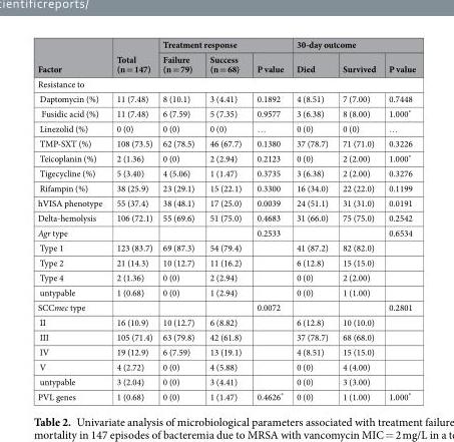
<table><thead><tr><td rowspan="2">Factor</td><td rowspan="2">Total (n = 147)</td><td colspan="3">Treatment response</td><td colspan="3">30-day outcome</td></tr><tr><td>Failure (n = 79)</td><td>Success (n = 68)</td><td>P value</td><td>Died</td><td>Survived</td><td>P value</td></tr></thead><tbody><tr><td colspan="8">Resistance to</td></tr><tr><td>Daptomycin (%)</td><td>11 (7.48)</td><td>8 (10.1)</td><td>3 (4.41)</td><td>0.1892</td><td>4 (8.51)</td><td>7 (7.00)</td><td>0.7448</td></tr><tr><td>Fusidic acid (%)</td><td>11 (7.48)</td><td>6 (7.59)</td><td>5 (7.35)</td><td>0.9577</td><td>3 (6.38)</td><td>8 (8.00)</td><td>1.000*</td></tr><tr><td>Linezolid (%)</td><td>0 (0)</td><td>0 (0)</td><td>0 (0)</td><td>…</td><td>0 (0)</td><td>0 (0)</td><td>…</td></tr><tr><td>TMP-SXT (%)</td><td>108 (73.5)</td><td>62 (78.5)</td><td>46 (67.7)</td><td>0.1380</td><td>37 (78.7)</td><td>71 (71.0)</td><td>0.3226</td></tr><tr><td>Teicoplanin (%)</td><td>2 (1.36)</td><td>0 (0)</td><td>2 (2.94)</td><td>0.2123</td><td>0 (0)</td><td>2 (2.00)</td><td>1.000*</td></tr><tr><td>Tigecycline (%)</td><td>5 (3.40)</td><td>4 (5.06)</td><td>1 (1.47)</td><td>0.3735</td><td>3 (6.38)</td><td>2 (2.00)</td><td>0.3276</td></tr><tr><td>Rifampin (%)</td><td>38 (25.9)</td><td>23 (29.1)</td><td>15 (22.1)</td><td>0.3300</td><td>16 (34.0)</td><td>22 (22.0)</td><td>0.1199</td></tr><tr><td>hVISA phenotype</td><td>55 (37.4)</td><td>38 (48.1)</td><td>17 (25.0)</td><td>0.0039</td><td>24 (51.1)</td><td>31 (31.0)</td><td>0.0191</td></tr><tr><td>Delta-hemolysis</td><td>106 (72.1)</td><td>55 (69.6)</td><td>51 (75.0)</td><td>0.4683</td><td>31 (66.0)</td><td>75 (75.0)</td><td>0.2542</td></tr><tr><td>Agr type</td><td></td><td></td><td></td><td>0.2533</td><td></td><td></td><td>0.6534</td></tr><tr><td>Type 1</td><td>123 (83.7)</td><td>69 (87.3)</td><td>54 (79.4)</td><td></td><td>41 (87.2)</td><td>82 (82.0)</td><td></td></tr><tr><td>Type 2</td><td>21 (14.3)</td><td>10 (12.7)</td><td>11 (16.2)</td><td></td><td>6 (12.8)</td><td>15 (15.0)</td><td></td></tr><tr><td>Type 4</td><td>2 (1.36)</td><td>0 (0)</td><td>2 (2.94)</td><td></td><td>0 (0)</td><td>2 (2.00)</td><td></td></tr><tr><td>untypable</td><td>1 (0.68)</td><td>0 (0)</td><td>1 (2.94)</td><td></td><td>0 (0)</td><td>1 (1.00)</td><td></td></tr><tr><td>SCCmec type</td><td></td><td></td><td></td><td>0.0072</td><td></td><td></td><td>0.2801</td></tr><tr><td>II</td><td>16 (10.9)</td><td>10 (12.7)</td><td>6 (8.82)</td><td></td><td>6 (12.8)</td><td>10 (10.0)</td><td></td></tr><tr><td>III</td><td>105 (71.4)</td><td>63 (79.8)</td><td>42 (61.8)</td><td></td><td>37 (78.7)</td><td>68 (68.0)</td><td></td></tr><tr><td>IV</td><td>19 (12.9)</td><td>6 (7.59)</td><td>13 (19.1)</td><td></td><td>4 (8.51)</td><td>15 (15.0)</td><td></td></tr><tr><td>V</td><td>4 (2.72)</td><td>0 (0)</td><td>4 (5.88)</td><td></td><td>0 (0)</td><td>4 (4.00)</td><td></td></tr><tr><td>untypable</td><td>3 (2.04)</td><td>0 (0)</td><td>3 (4.41)</td><td></td><td>0 (0)</td><td>3 (3.00)</td><td></td></tr><tr><td>PVL genes</td><td>1 (0.68)</td><td>0 (0)</td><td>1 (1.47)</td><td>0.4626*</td><td>0 (0)</td><td>1 (1.00)</td><td>1.000*</td></tr></tbody></table>